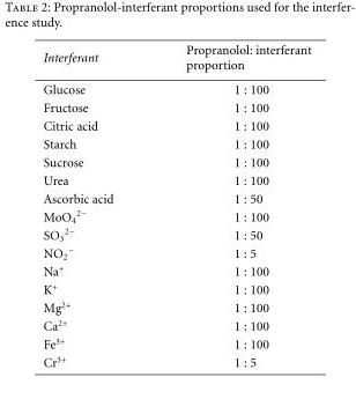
<table><tbody><tr><td>Interferant</td><td>Propranolol: interferant proportion</td></tr><tr><td>Glucose</td><td>1 : 100</td></tr><tr><td>Fructose</td><td>1 : 100</td></tr><tr><td>Citric acid</td><td>1 : 100</td></tr><tr><td>Starch</td><td>1 : 100</td></tr><tr><td>Sucrose</td><td>1 : 100</td></tr><tr><td>Urea</td><td>1 : 100</td></tr><tr><td>Ascorbic acid</td><td>1 : 50</td></tr><tr><td>MoO<sub>4</sub> <sup>2−</sup></td><td>1 : 100</td></tr><tr><td>SO<sub>3</sub> <sup>2−</sup></td><td>1 : 50</td></tr><tr><td>NO<sub>2</sub> <sup>−</sup></td><td>1 : 5</td></tr><tr><td>Na<sup>+</sup></td><td>1 : 100</td></tr><tr><td>K<sup>+</sup></td><td>1 : 100</td></tr><tr><td>Mg<sup>2+</sup></td><td>1 : 100</td></tr><tr><td>Ca<sup>2+</sup></td><td>1 : 100</td></tr><tr><td>Fe<sup>3+</sup></td><td>1 : 100</td></tr><tr><td>Cr<sup>3+</sup></td><td>1 : 5</td></tr></tbody></table>